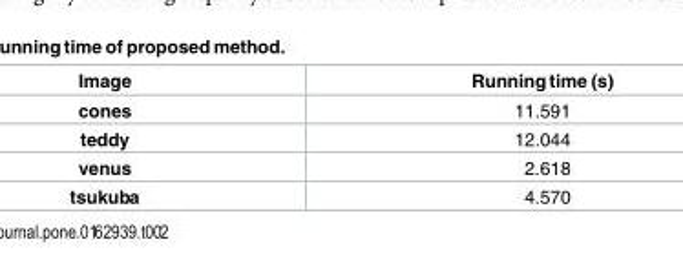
<table><thead><tr><td>Image</td><td>Running time (s)</td></tr></thead><tbody><tr><td>cones</td><td>11.591</td></tr><tr><td>teddy</td><td>12.044</td></tr><tr><td>venus</td><td>2.618</td></tr><tr><td>tsukuba</td><td>4.570</td></tr></tbody></table>